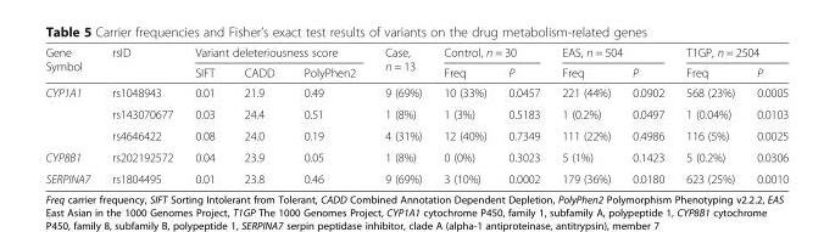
<table><thead><tr><td rowspan="2">Gene Symbol</td><td rowspan="2">rsID</td><td colspan="3">Variant deleteriousness score</td><td rowspan="2">Case, n = 13</td><td colspan="2">Control, n = 30</td><td colspan="2">EAS, n = 504</td><td colspan="2">T1GP, n = 2504</td></tr><tr><td>SIFT</td><td>CADD</td><td>PolyPhen2</td><td>Freq</td><td>P</td><td>Freq</td><td>P</td><td>Freq</td><td>P</td></tr></thead><tbody><tr><td rowspan="3">CYP1A1</td><td>rs1048943</td><td>0.01</td><td>21.9</td><td>0.49</td><td>9 (69%)</td><td>10 (33%)</td><td>0.0457</td><td>221 (44%)</td><td>0.0902</td><td>568 (23%)</td><td>0.0005</td></tr><tr><td>rs143070677</td><td>0.03</td><td>24.4</td><td>0.51</td><td>1 (8%)</td><td>1 (3%)</td><td>0.5183</td><td>1 (0.2%)</td><td>0.0497</td><td>1 (0.04%)</td><td>0.0103</td></tr><tr><td>rs4646422</td><td>0.08</td><td>24.0</td><td>0.19</td><td>4 (31%)</td><td>12 (40%)</td><td>0.7349</td><td>111 (22%)</td><td>0.4986</td><td>116 (5%)</td><td>0.0025</td></tr><tr><td>CYP8B1</td><td>rs202192572</td><td>0.04</td><td>23.9</td><td>0.05</td><td>1 (8%)</td><td>0 (0%)</td><td>0.3023</td><td>5 (1%)</td><td>0.1423</td><td>5 (0.2%)</td><td>0.0306</td></tr><tr><td>SERPINA7</td><td>rs1804495</td><td>0.01</td><td>23.8</td><td>0.46</td><td>9 (69%)</td><td>3 (10%)</td><td>0.0002</td><td>179 (36%)</td><td>0.0180</td><td>623 (25%)</td><td>0.0010</td></tr></tbody></table>